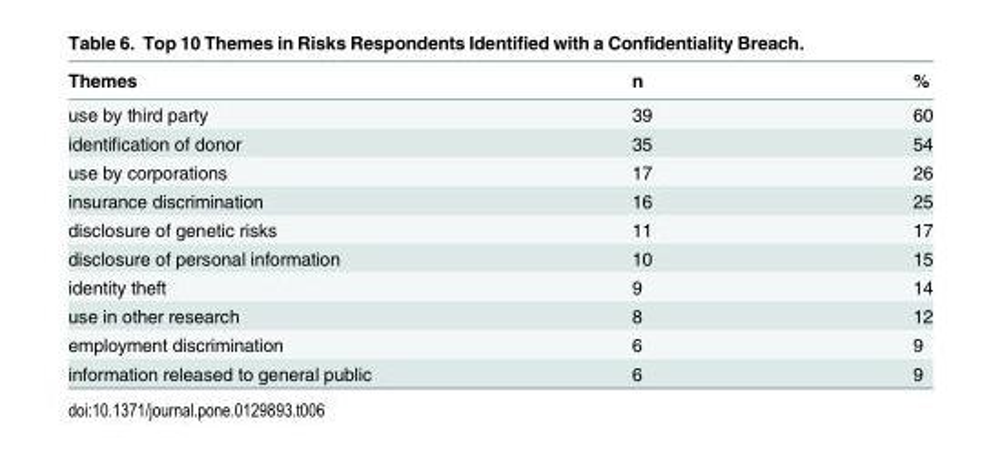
<table><thead><tr><td>Themes</td><td>n</td><td>%</td></tr></thead><tbody><tr><td>use by third party</td><td>39</td><td>60</td></tr><tr><td>identification of donor</td><td>35</td><td>54</td></tr><tr><td>use by corporations</td><td>17</td><td>26</td></tr><tr><td>insurance discrimination</td><td>16</td><td>25</td></tr><tr><td>disclosure of genetic risks</td><td>11</td><td>17</td></tr><tr><td>disclosure of personal information</td><td>10</td><td>15</td></tr><tr><td>identity theft</td><td>9</td><td>14</td></tr><tr><td>use in other research</td><td>8</td><td>12</td></tr><tr><td>employment discrimination</td><td>6</td><td>9</td></tr><tr><td>information released to general public</td><td>6</td><td>9</td></tr></tbody></table>